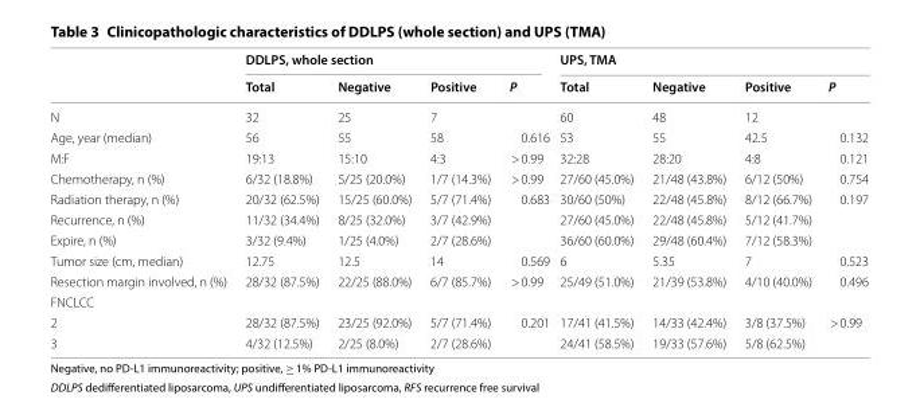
<table><thead><tr><td rowspan="2"></td><td colspan="4">DDLPS, whole section</td><td colspan="4">UPS, TMA</td></tr><tr><td>Total</td><td>Negative</td><td>Positive</td><td>P</td><td>Total</td><td>Negative</td><td>Positive</td><td>P</td></tr></thead><tbody><tr><td>N</td><td>32</td><td>25</td><td>7</td><td></td><td>60</td><td>48</td><td>12</td><td></td></tr><tr><td>Age, year (median)</td><td>56</td><td>55</td><td>58</td><td>0.616</td><td>53</td><td>55</td><td>42.5</td><td>0.132</td></tr><tr><td>M:F</td><td>19:13</td><td>15:10</td><td>4:3</td><td>&gt; 0.99</td><td>32:28</td><td>28:20</td><td>4:8</td><td>0.121</td></tr><tr><td>Chemotherapy, n (%)</td><td>6/32 (18.8%)</td><td>5/25 (20.0%)</td><td>1/7 (14.3%)</td><td>&gt; 0.99</td><td>27/60 (45.0%)</td><td>21/48 (43.8%)</td><td>6/12 (50%)</td><td>0.754</td></tr><tr><td>Radiation therapy, n (%)</td><td>20/32 (62.5%)</td><td>15/25 (60.0%)</td><td>5/7 (71.4%)</td><td>0.683</td><td>30/60 (50%)</td><td>22/48 (45.8%)</td><td>8/12 (66.7%)</td><td>0.197</td></tr><tr><td>Recurrence, n (%)</td><td>11/32 (34.4%)</td><td>8/25 (32.0%)</td><td>3/7 (42.9%)</td><td></td><td>27/60 (45.0%)</td><td>22/48 (45.8%)</td><td>5/12 (41.7%)</td><td></td></tr><tr><td>Expire, n (%)</td><td>3/32 (9.4%)</td><td>1/25 (4.0%)</td><td>2/7 (28.6%)</td><td></td><td>36/60 (60.0%)</td><td>29/48 (60.4%)</td><td>7/12 (58.3%)</td><td></td></tr><tr><td>Tumor size (cm, median)</td><td>12.75</td><td>12.5</td><td>14</td><td>0.569</td><td>6</td><td>5.35</td><td>7</td><td>0.523</td></tr><tr><td>Resection margin involved, n (%)</td><td>28/32 (87.5%)</td><td>22/25 (88.0%)</td><td>6/7 (85.7%)</td><td>&gt; 0.99</td><td>25/49 (51.0%)</td><td>21/39 (53.8%)</td><td>4/10 (40.0%)</td><td>0.496</td></tr><tr><td colspan="9">FNCLCC</td></tr><tr><td>2</td><td>28/32 (87.5%)</td><td>23/25 (92.0%)</td><td>5/7 (71.4%)</td><td>0.201</td><td>17/41 (41.5%)</td><td>14/33 (42.4%)</td><td>3/8 (37.5%)</td><td>&gt; 0.99</td></tr><tr><td>3</td><td>4/32 (12.5%)</td><td>2/25 (8.0%)</td><td>2/7 (28.6%)</td><td></td><td>24/41 (58.5%)</td><td>19/33 (57.6%)</td><td>5/8 (62.5%)</td><td></td></tr></tbody></table>